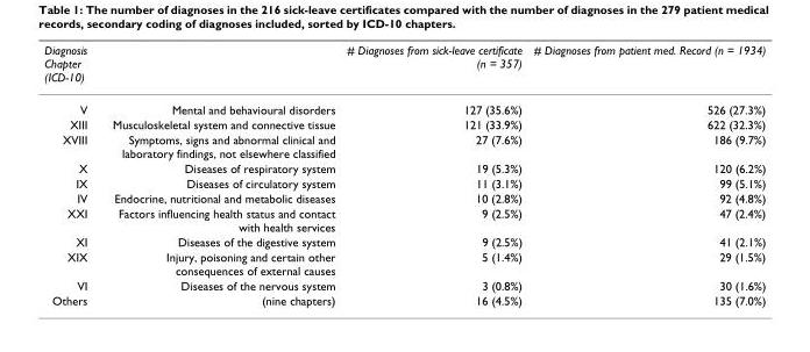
<table><thead><tr><td>Diagnosis Chapter (ICD-10)</td><td></td><td># Diagnoses from sick-leave certificate (n = 357)</td><td># Diagnoses from patient med. Record (n = 1934)</td></tr></thead><tbody><tr><td>V</td><td>Mental and behavioural disorders</td><td>127 (35.6%)</td><td>526 (27.3%)</td></tr><tr><td>XIII</td><td>Musculoskeletal system and connective tissue</td><td>121 (33.9%)</td><td>622 (32.3%)</td></tr><tr><td>XVIII</td><td>Symptoms, signs and abnormal clinical and laboratory findings, not elsewhere classified</td><td>27 (7.6%)</td><td>186 (9.7%)</td></tr><tr><td>X</td><td>Diseases of respiratory system</td><td>19 (5.3%)</td><td>120 (6.2%)</td></tr><tr><td>IX</td><td>Diseases of circulatory system</td><td>11 (3.1%)</td><td>99 (5.1%)</td></tr><tr><td>IV</td><td>Endocrine, nutritional and metabolic diseases</td><td>10 (2.8%)</td><td>92 (4.8%)</td></tr><tr><td>XXI</td><td>Factors influencing health status and contact with health services</td><td>9 (2.5%)</td><td>47 (2.4%)</td></tr><tr><td>XI</td><td>Diseases of the digestive system</td><td>9 (2.5%)</td><td>41 (2.1%)</td></tr><tr><td>XIX</td><td>Injury, poisoning and certain other consequences of external causes</td><td>5 (1.4%)</td><td>29 (1.5%)</td></tr><tr><td>VI</td><td>Diseases of the nervous system</td><td>3 (0.8%)</td><td>30 (1.6%)</td></tr><tr><td>Others</td><td>(nine chapters)</td><td>16 (4.5%)</td><td>135 (7.0%)</td></tr></tbody></table>